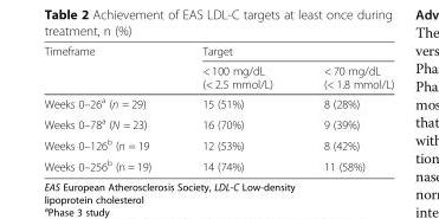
<table><thead><tr><td rowspan="2">Timeframe</td><td colspan="2">Target</td></tr><tr><td>&lt; 100 mg/dL (&lt; 2.5 mmol/L)</td><td>&lt; 70 mg/dL (&lt; 1.8 mmol/L)</td></tr></thead><tbody><tr><td>Weeks 0–26<sup>a</sup> (n = 29)</td><td>15 (51%)</td><td>8 (28%)</td></tr><tr><td>Weeks 0–78<sup>a</sup> (N = 23)</td><td>16 (70%)</td><td>9 (39%)</td></tr><tr><td>Weeks 0–126<sup>b</sup> (n = 19</td><td>12 (53%)</td><td>8 (42%)</td></tr><tr><td>Weeks 0–256<sup>b</sup> (n = 19)</td><td>14 (74%)</td><td>11 (58%)</td></tr></tbody></table>